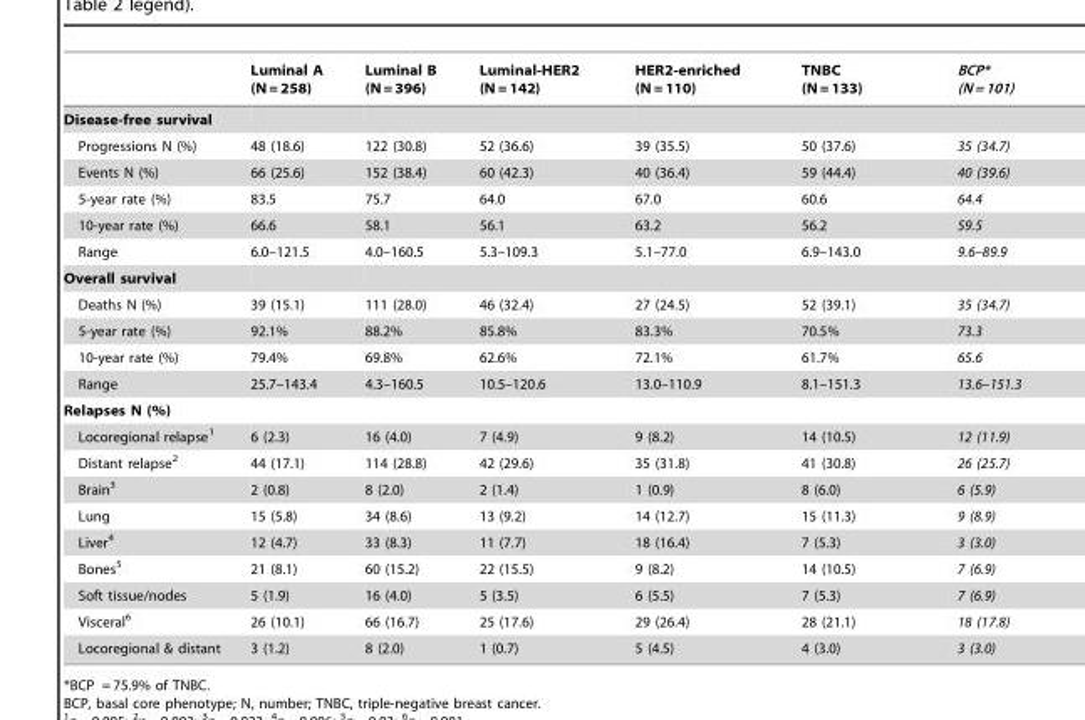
<table><thead><tr><td></td><td>Luminal A (N = 258)</td><td>Luminal B (N = 396)</td><td>Luminal-HER2 (N = 142)</td><td>HER2-enriched (N = 110)</td><td>TNBC (N = 133)</td><td>BCP* (N = 101)</td></tr></thead><tbody><tr><td colspan="7">Disease-free survival</td></tr><tr><td>Progressions N (%)</td><td>48 (18.6)</td><td>122 (30.8)</td><td>52 (36.6)</td><td>39 (35.5)</td><td>50 (37.6)</td><td>35 (34.7)</td></tr><tr><td>Events N (%)</td><td>66 (25.6)</td><td>152 (38.4)</td><td>60 (42.3)</td><td>40 (36.4)</td><td>59 (44.4)</td><td>40 (39.6)</td></tr><tr><td>5-year rate (%)</td><td>83.5</td><td>75.7</td><td>64.0</td><td>67.0</td><td>60.6</td><td>64.4</td></tr><tr><td>10-year rate (%)</td><td>66.6</td><td>58.1</td><td>56.1</td><td>63.2</td><td>56.2</td><td>59.5</td></tr><tr><td>Range</td><td>6.0–121.5</td><td>4.0–160.5</td><td>5.3–109.3</td><td>5.1–77.0</td><td>6.9–143.0</td><td>9.6–89.9</td></tr><tr><td colspan="7">Overall survival</td></tr><tr><td>Deaths N (%)</td><td>39 (15.1)</td><td>111 (28.0)</td><td>46 (32.4)</td><td>27 (24.5)</td><td>52 (39.1)</td><td>35 (34.7)</td></tr><tr><td>5-year rate (%)</td><td>92.1%</td><td>88.2%</td><td>85.8%</td><td>83.3%</td><td>70.5%</td><td>73.3</td></tr><tr><td>10-year rate (%)</td><td>79.4%</td><td>69.8%</td><td>62.6%</td><td>72.1%</td><td>61.7%</td><td>65.6</td></tr><tr><td>Range</td><td>25.7–143.4</td><td>4.3–160.5</td><td>10.5–120.6</td><td>13.0–110.9</td><td>8.1–151.3</td><td>13.6–151.3</td></tr><tr><td colspan="7">Relapses N (%)</td></tr><tr><td>Locoregional relapse<sup>1</sup></td><td>6 (2.3)</td><td>16 (4.0)</td><td>7 (4.9)</td><td>9 (8.2)</td><td>14 (10.5)</td><td>12 (11.9)</td></tr><tr><td>Distant relapse<sup>2</sup></td><td>44 (17.1)</td><td>114 (28.8)</td><td>42 (29.6)</td><td>35 (31.8)</td><td>41 (30.8)</td><td>26 (25.7)</td></tr><tr><td>Brain<sup>3</sup></td><td>2 (0.8)</td><td>8 (2.0)</td><td>2 (1.4)</td><td>1 (0.9)</td><td>8 (6.0)</td><td>6 (5.9)</td></tr><tr><td>Lung</td><td>15 (5.8)</td><td>34 (8.6)</td><td>13 (9.2)</td><td>14 (12.7)</td><td>15 (11.3)</td><td>9 (8.9)</td></tr><tr><td>Liver<sup>4</sup></td><td>12 (4.7)</td><td>33 (8.3)</td><td>11 (7.7)</td><td>18 (16.4)</td><td>7 (5.3)</td><td>3 (3.0)</td></tr><tr><td>Bones<sup>5</sup></td><td>21 (8.1)</td><td>60 (15.2)</td><td>22 (15.5)</td><td>9 (8.2)</td><td>14 (10.5)</td><td>7 (6.9)</td></tr><tr><td>Soft tissue/nodes</td><td>5 (1.9)</td><td>16 (4.0)</td><td>5 (3.5)</td><td>6 (5.5)</td><td>7 (5.3)</td><td>7 (6.9)</td></tr><tr><td>Visceral<sup>6</sup></td><td>26 (10.1)</td><td>66 (16.7)</td><td>25 (17.6)</td><td>29 (26.4)</td><td>28 (21.1)</td><td>18 (17.8)</td></tr><tr><td>Locoregional &amp; distant</td><td>3 (1.2)</td><td>8 (2.0)</td><td>1 (0.7)</td><td>5 (4.5)</td><td>4 (3.0)</td><td>3 (3.0)</td></tr></tbody></table>